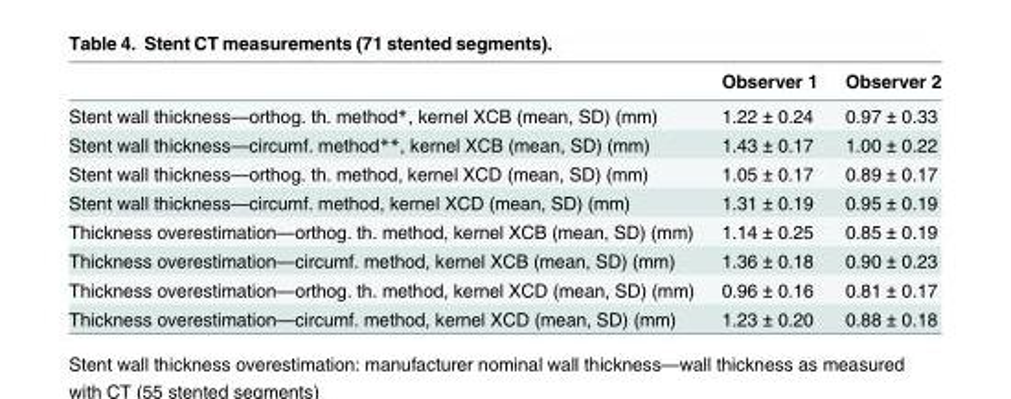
<table><thead><tr><td></td><td>Observer 1</td><td>Observer 2</td></tr></thead><tbody><tr><td>Stent wall thickness—orthog. th. method*, kernel XCB (mean, SD) (mm)</td><td>1.22 ± 0.24</td><td>0.97 ± 0.33</td></tr><tr><td>Stent wall thickness—circumf. method**, kernel XCB (mean, SD) (mm)</td><td>1.43 ± 0.17</td><td>1.00 ± 0.22</td></tr><tr><td>Stent wall thickness—orthog. th. method, kernel XCD (mean, SD) (mm)</td><td>1.05 ± 0.17</td><td>0.89 ± 0.17</td></tr><tr><td>Stent wall thickness—circumf. method, kernel XCD (mean, SD) (mm)</td><td>1.31 ± 0.19</td><td>0.95 ± 0.19</td></tr><tr><td>Thickness overestimation—orthog. th. method, kernel XCB (mean, SD) (mm)</td><td>1.14 ± 0.25</td><td>0.85 ± 0.19</td></tr><tr><td>Thickness overestimation—circumf. method, kernel XCB (mean, SD) (mm)</td><td>1.36 ± 0.18</td><td>0.90 ± 0.23</td></tr><tr><td>Thickness overestimation—orthog. th. method, kernel XCD (mean, SD) (mm)</td><td>0.96 ± 0.16</td><td>0.81 ± 0.17</td></tr><tr><td>Thickness overestimation—circumf. method, kernel XCD (mean, SD) (mm)</td><td>1.23 ± 0.20</td><td>0.88 ± 0.18</td></tr></tbody></table>